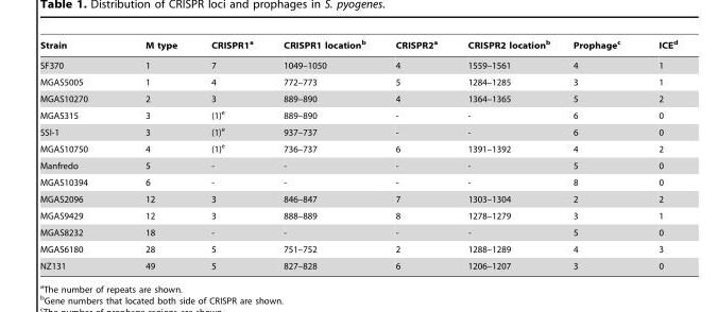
<table><thead><tr><td>Strain</td><td>M type</td><td>CRISPR1<sup>a</sup></td><td>CRISPR1 location<sup>b</sup></td><td>CRISPR2<sup>a</sup></td><td>CRISPR2 location<sup>b</sup></td><td>Prophage<sup>c</sup></td><td>ICE<sup>d</sup></td></tr></thead><tbody><tr><td>SF370</td><td>1</td><td>7</td><td>1049–1050</td><td>4</td><td>1559–1561</td><td>4</td><td>1</td></tr><tr><td>MGAS5005</td><td>1</td><td>4</td><td>772–773</td><td>5</td><td>1284–1285</td><td>3</td><td>1</td></tr><tr><td>MGAS10270</td><td>2</td><td>3</td><td>889–890</td><td>4</td><td>1364–1365</td><td>5</td><td>2</td></tr><tr><td>MGAS315</td><td>3</td><td>(1)<sup>e</sup></td><td>889–890</td><td>-</td><td>-</td><td>6</td><td>0</td></tr><tr><td>SSI-1</td><td>3</td><td>(1)<sup>e</sup></td><td>937–737</td><td>-</td><td>-</td><td>6</td><td>0</td></tr><tr><td>MGAS10750</td><td>4</td><td>(1)<sup>e</sup></td><td>736–737</td><td>6</td><td>1391–1392</td><td>4</td><td>2</td></tr><tr><td>Manfredo</td><td>5</td><td>-</td><td>-</td><td>-</td><td>-</td><td>5</td><td>0</td></tr><tr><td>MGAS10394</td><td>6</td><td>-</td><td>-</td><td>-</td><td>-</td><td>8</td><td>0</td></tr><tr><td>MGAS2096</td><td>12</td><td>3</td><td>846–847</td><td>7</td><td>1303–1304</td><td>2</td><td>2</td></tr><tr><td>MGAS9429</td><td>12</td><td>3</td><td>888–889</td><td>8</td><td>1278–1279</td><td>3</td><td>1</td></tr><tr><td>MGAS8232</td><td>18</td><td>-</td><td>-</td><td>-</td><td>-</td><td>5</td><td>0</td></tr><tr><td>MGAS6180</td><td>28</td><td>5</td><td>751–752</td><td>2</td><td>1288–1289</td><td>4</td><td>3</td></tr><tr><td>NZ131</td><td>49</td><td>5</td><td>827–828</td><td>6</td><td>1206–1207</td><td>3</td><td>0</td></tr></tbody></table>